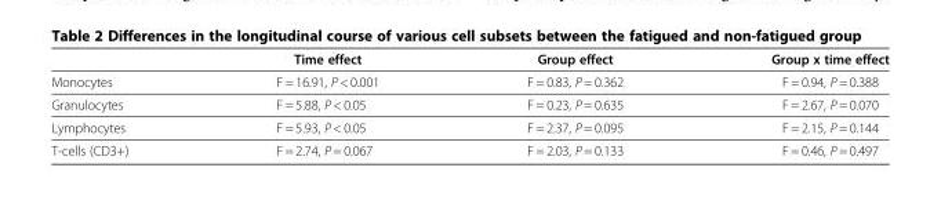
<table><thead><tr><td></td><td>Time effect</td><td>Group effect</td><td>Group x time effect</td></tr></thead><tbody><tr><td>Monocytes</td><td>F = 16.91, P &lt; 0.001</td><td>F = 0.83, P = 0.362</td><td>F = 0.94, P = 0.388</td></tr><tr><td>Granulocytes</td><td>F = 5.88, P &lt; 0.05</td><td>F = 0.23, P = 0.635</td><td>F = 2.67, P = 0.070</td></tr><tr><td>Lymphocytes</td><td>F = 5.93, P &lt; 0.05</td><td>F = 2.37, P = 0.095</td><td>F = 2.15, P = 0.144</td></tr><tr><td>T-cells (CD3+)</td><td>F = 2.74, P = 0.067</td><td>F = 2.03, P = 0.133</td><td>F = 0.46, P = 0.497</td></tr></tbody></table>